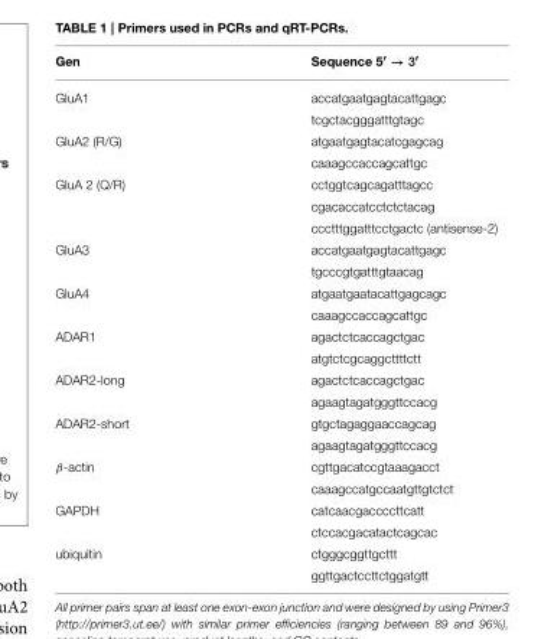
<table><thead><tr><td>Gen</td><td>Sequence 5′ → 3′</td></tr></thead><tbody><tr><td rowspan="2">GluA1</td><td>accatgaatgagtacattgagc</td></tr><tr><td>tcgctacgggatttgtagc</td></tr><tr><td rowspan="2">GluA2 (R/G)</td><td>atgaatgagtacatcgagcag</td></tr><tr><td>caaagccaccagcattgc</td></tr><tr><td rowspan="3">GluA 2 (Q/R)</td><td>cctggtcagcagatttagcc</td></tr><tr><td>cgacaccatcctctctacag</td></tr><tr><td>ccctttggatttcctgactc (antisense-2)</td></tr><tr><td rowspan="2">GluA3</td><td>accatgaatgagtacattgagc</td></tr><tr><td>tgcccgtgatttgtaacag</td></tr><tr><td rowspan="2">GluA4</td><td>atgaatgaatacattgagcagc</td></tr><tr><td>caaagccaccagcattgc</td></tr><tr><td rowspan="2">ADAR1</td><td>agactctcaccagctgac</td></tr><tr><td>atgtctcgcaggcttttctt</td></tr><tr><td rowspan="2">ADAR2-long</td><td>agactctcaccagctgac</td></tr><tr><td>agaagtagatgggttccacg</td></tr><tr><td rowspan="2">ADAR2-short</td><td>gtgctagaggaaccagcag</td></tr><tr><td>agaagtagatgggttccacg</td></tr><tr><td rowspan="2">β-actin</td><td>cgttgacatccgtaaagacct</td></tr><tr><td>caaagccatgccaatgttgtctct</td></tr><tr><td rowspan="2">GAPDH</td><td>catcaacgaccccttcatt</td></tr><tr><td>ctccacgacatactcagcac</td></tr><tr><td rowspan="2">ubiquitin</td><td>ctgggcggttgcttt</td></tr><tr><td>ggttgactccttctggatgtt</td></tr></tbody></table>